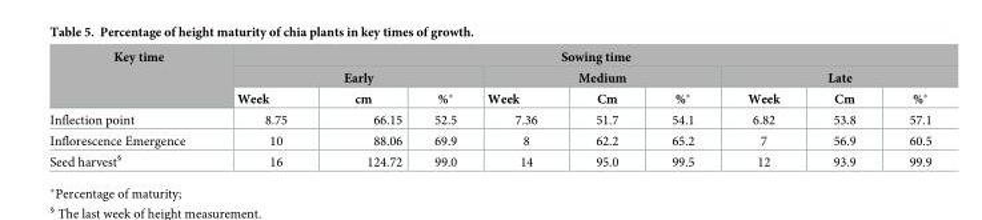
<table><thead><tr><td rowspan="3">Key time</td><td colspan="9">Sowing time</td></tr><tr><td colspan="3">Early</td><td colspan="3">Medium</td><td colspan="3">Late</td></tr><tr><td>Week</td><td>cm</td><td>%*</td><td>Week</td><td>Cm</td><td>%*</td><td>Week</td><td>Cm</td><td>%*</td></tr></thead><tbody><tr><td>Inflection point</td><td>8.75</td><td>66.15</td><td>52.5</td><td>7.36</td><td>51.7</td><td>54.1</td><td>6.82</td><td>53.8</td><td>57.1</td></tr><tr><td>Inflorescence Emergence</td><td>10</td><td>88.06</td><td>69.9</td><td>8</td><td>62.2</td><td>65.2</td><td>7</td><td>56.9</td><td>60.5</td></tr><tr><td>Seed harvest<sup>§</sup></td><td>16</td><td>124.72</td><td>99.0</td><td>14</td><td>95.0</td><td>99.5</td><td>12</td><td>93.9</td><td>99.9</td></tr></tbody></table>